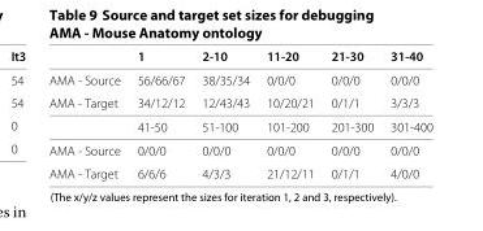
<table><thead><tr><td></td><td>1</td><td>2-10</td><td>11-20</td><td>21-30</td><td>31-40</td></tr></thead><tbody><tr><td>AMA - Source</td><td>56/66/67</td><td>38/35/34</td><td>0/0/0</td><td>0/0/0</td><td>0/0/0</td></tr><tr><td rowspan="2">AMA - Target</td><td>34/12/12</td><td>12/43/43</td><td>10/20/21</td><td>0/1/1</td><td>3/3/3</td></tr><tr><td>41-50</td><td>51-100</td><td>101-200</td><td>201-300</td><td>301-400</td></tr><tr><td>AMA - Source</td><td>0/0/0</td><td>0/0/0</td><td>0/0/0</td><td>0/0/0</td><td>0/0/0</td></tr><tr><td>AMA - Target</td><td>6/6/6</td><td>4/3/3</td><td>21/12/11</td><td>0/1/1</td><td>4/0/0</td></tr></tbody></table>